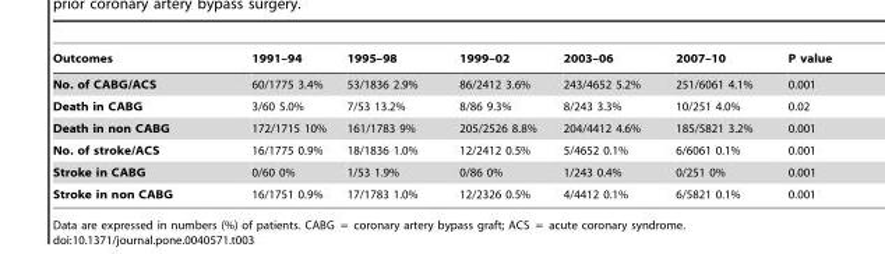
<table><thead><tr><td>Outcomes</td><td>1991–94</td><td>1995–98</td><td>1999–02</td><td>2003–06</td><td>2007–10</td><td>P value</td></tr></thead><tbody><tr><td>No. of CABG/ACS</td><td>60/1775 3.4%</td><td>53/1836 2.9%</td><td>86/2412 3.6%</td><td>243/4652 5.2%</td><td>251/6061 4.1%</td><td>0.001</td></tr><tr><td>Death in CABG</td><td>3/60 5.0%</td><td>7/53 13.2%</td><td>8/86 9.3%</td><td>8/243 3.3%</td><td>10/251 4.0%</td><td>0.02</td></tr><tr><td>Death in non CABG</td><td>172/1715 10%</td><td>161/1783 9%</td><td>205/2526 8.8%</td><td>204/4412 4.6%</td><td>185/5821 3.2%</td><td>0.001</td></tr><tr><td>No. of stroke/ACS</td><td>16/1775 0.9%</td><td>18/1836 1.0%</td><td>12/2412 0.5%</td><td>5/4652 0.1%</td><td>6/6061 0.1%</td><td>0.001</td></tr><tr><td>Stroke in CABG</td><td>0/60 0%</td><td>1/53 1.9%</td><td>0/86 0%</td><td>1/243 0.4%</td><td>0/251 0%</td><td>0.001</td></tr><tr><td>Stroke in non CABG</td><td>16/1751 0.9%</td><td>17/1783 1.0%</td><td>12/2326 0.5%</td><td>4/4412 0.1%</td><td>6/5821 0.1%</td><td>0.001</td></tr></tbody></table>